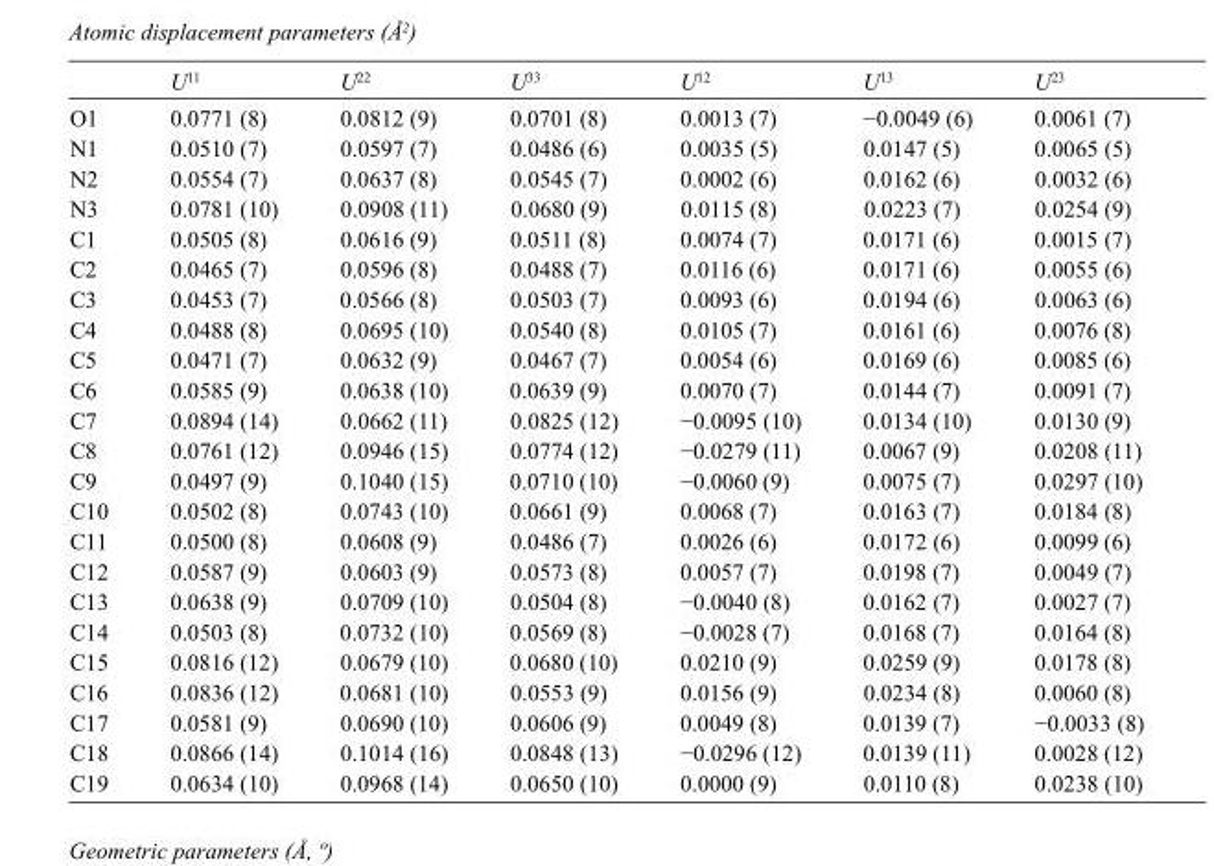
<table><thead><tr><td></td><td>U<sup>11</sup></td><td>U<sup>22</sup></td><td>U<sup>33</sup></td><td>U<sup>12</sup></td><td>U<sup>13</sup></td><td>U<sup>23</sup></td></tr></thead><tbody><tr><td>O1</td><td>0.0771 (8)</td><td>0.0812 (9)</td><td>0.0701 (8)</td><td>0.0013 (7)</td><td>−0.0049 (6)</td><td>0.0061 (7)</td></tr><tr><td>N1</td><td>0.0510 (7)</td><td>0.0597 (7)</td><td>0.0486 (6)</td><td>0.0035 (5)</td><td>0.0147 (5)</td><td>0.0065 (5)</td></tr><tr><td>N2</td><td>0.0554 (7)</td><td>0.0637 (8)</td><td>0.0545 (7)</td><td>0.0002 (6)</td><td>0.0162 (6)</td><td>0.0032 (6)</td></tr><tr><td>N3</td><td>0.0781 (10)</td><td>0.0908 (11)</td><td>0.0680 (9)</td><td>0.0115 (8)</td><td>0.0223 (7)</td><td>0.0254 (9)</td></tr><tr><td>C1</td><td>0.0505 (8)</td><td>0.0616 (9)</td><td>0.0511 (8)</td><td>0.0074 (7)</td><td>0.0171 (6)</td><td>0.0015 (7)</td></tr><tr><td>C2</td><td>0.0465 (7)</td><td>0.0596 (8)</td><td>0.0488 (7)</td><td>0.0116 (6)</td><td>0.0171 (6)</td><td>0.0055 (6)</td></tr><tr><td>C3</td><td>0.0453 (7)</td><td>0.0566 (8)</td><td>0.0503 (7)</td><td>0.0093 (6)</td><td>0.0194 (6)</td><td>0.0063 (6)</td></tr><tr><td>C4</td><td>0.0488 (8)</td><td>0.0695 (10)</td><td>0.0540 (8)</td><td>0.0105 (7)</td><td>0.0161 (6)</td><td>0.0076 (8)</td></tr><tr><td>C5</td><td>0.0471 (7)</td><td>0.0632 (9)</td><td>0.0467 (7)</td><td>0.0054 (6)</td><td>0.0169 (6)</td><td>0.0085 (6)</td></tr><tr><td>C6</td><td>0.0585 (9)</td><td>0.0638 (10)</td><td>0.0639 (9)</td><td>0.0070 (7)</td><td>0.0144 (7)</td><td>0.0091 (7)</td></tr><tr><td>C7</td><td>0.0894 (14)</td><td>0.0662 (11)</td><td>0.0825 (12)</td><td>−0.0095 (10)</td><td>0.0134 (10)</td><td>0.0130 (9)</td></tr><tr><td>C8</td><td>0.0761 (12)</td><td>0.0946 (15)</td><td>0.0774 (12)</td><td>−0.0279 (11)</td><td>0.0067 (9)</td><td>0.0208 (11)</td></tr><tr><td>C9</td><td>0.0497 (9)</td><td>0.1040 (15)</td><td>0.0710 (10)</td><td>−0.0060 (9)</td><td>0.0075 (7)</td><td>0.0297 (10)</td></tr><tr><td>C10</td><td>0.0502 (8)</td><td>0.0743 (10)</td><td>0.0661 (9)</td><td>0.0068 (7)</td><td>0.0163 (7)</td><td>0.0184 (8)</td></tr><tr><td>C11</td><td>0.0500 (8)</td><td>0.0608 (9)</td><td>0.0486 (7)</td><td>0.0026 (6)</td><td>0.0172 (6)</td><td>0.0099 (6)</td></tr><tr><td>C12</td><td>0.0587 (9)</td><td>0.0603 (9)</td><td>0.0573 (8)</td><td>0.0057 (7)</td><td>0.0198 (7)</td><td>0.0049 (7)</td></tr><tr><td>C13</td><td>0.0638 (9)</td><td>0.0709 (10)</td><td>0.0504 (8)</td><td>−0.0040 (8)</td><td>0.0162 (7)</td><td>0.0027 (7)</td></tr><tr><td>C14</td><td>0.0503 (8)</td><td>0.0732 (10)</td><td>0.0569 (8)</td><td>−0.0028 (7)</td><td>0.0168 (7)</td><td>0.0164 (8)</td></tr><tr><td>C15</td><td>0.0816 (12)</td><td>0.0679 (10)</td><td>0.0680 (10)</td><td>0.0210 (9)</td><td>0.0259 (9)</td><td>0.0178 (8)</td></tr><tr><td>C16</td><td>0.0836 (12)</td><td>0.0681 (10)</td><td>0.0553 (9)</td><td>0.0156 (9)</td><td>0.0234 (8)</td><td>0.0060 (8)</td></tr><tr><td>C17</td><td>0.0581 (9)</td><td>0.0690 (10)</td><td>0.0606 (9)</td><td>0.0049 (8)</td><td>0.0139 (7)</td><td>−0.0033 (8)</td></tr><tr><td>C18</td><td>0.0866 (14)</td><td>0.1014 (16)</td><td>0.0848 (13)</td><td>−0.0296 (12)</td><td>0.0139 (11)</td><td>0.0028 (12)</td></tr><tr><td>C19</td><td>0.0634 (10)</td><td>0.0968 (14)</td><td>0.0650 (10)</td><td>0.0000 (9)</td><td>0.0110 (8)</td><td>0.0238 (10)</td></tr></tbody></table>